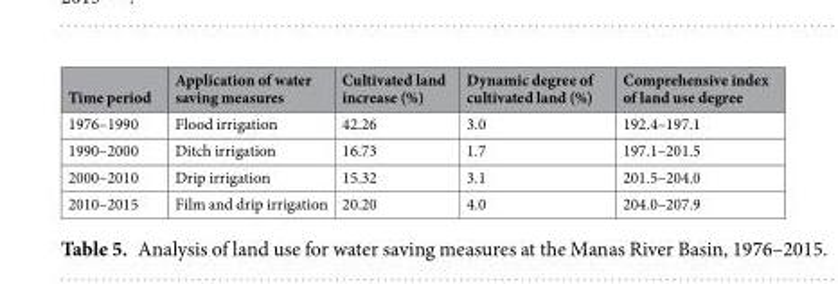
<table><thead><tr><td>Time period</td><td>Application of water saving measures</td><td>Cultivated land increase (%)</td><td>Dynamic degree of cultivated land (%)</td><td>Comprehensive index of land use degree</td></tr></thead><tbody><tr><td>1976–1990</td><td>Flood irrigation</td><td>42.26</td><td>3.0</td><td>192.4–197.1</td></tr><tr><td>1990–2000</td><td>Ditch irrigation</td><td>16.73</td><td>1.7</td><td>197.1–201.5</td></tr><tr><td>2000–2010</td><td>Drip irrigation</td><td>15.32</td><td>3.1</td><td>201.5–204.0</td></tr><tr><td>2010–2015</td><td>Film and drip irrigation</td><td>20.20</td><td>4.0</td><td>204.0–207.9</td></tr></tbody></table>